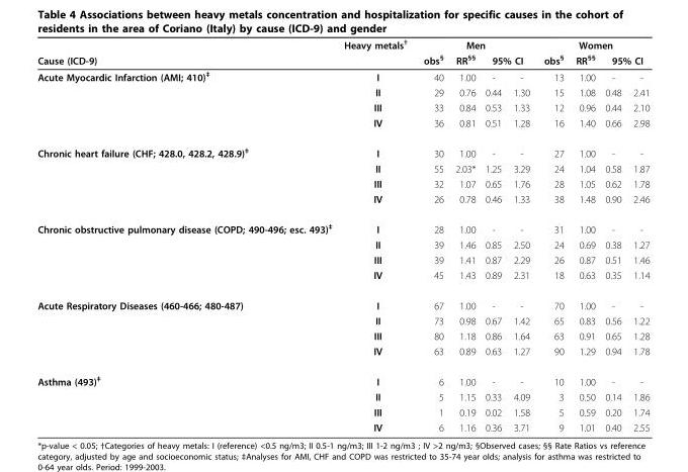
<table><thead><tr><td rowspan="3">Cause (ICD-9) Acute Myocardic Infarction (AMI; 410)<sup>‡</sup></td><td rowspan="3">Heavy metals<sup>†</sup> I</td><td colspan="4">Men</td><td colspan="4">Women</td></tr><tr><td rowspan="2">obs<sup>§</sup> 40</td><td rowspan="2">RR<sup>§§</sup> 1.00</td><td colspan="2">95% CI</td><td rowspan="2">obs<sup>§</sup> 13</td><td rowspan="2">RR<sup>§§</sup> 1.00</td><td colspan="2">95% CI</td></tr><tr><td>-</td><td>-</td><td>-</td><td>-</td></tr></thead><tbody><tr><td></td><td>II</td><td>29</td><td>0.76</td><td>0.44</td><td>1.30</td><td>15</td><td>1.08</td><td>0.48</td><td>2.41</td></tr><tr><td></td><td>III</td><td>33</td><td>0.84</td><td>0.53</td><td>1.33</td><td>12</td><td>0.96</td><td>0.44</td><td>2.10</td></tr><tr><td></td><td>IV</td><td>36</td><td>0.81</td><td>0.51</td><td>1.28</td><td>16</td><td>1.40</td><td>0.66</td><td>2.98</td></tr><tr><td rowspan="4">Chronic heart failure (CHF; 428.0, 428.2, 428.9)<sup>‡</sup></td><td>I</td><td>30</td><td>1.00</td><td>-</td><td>-</td><td>27</td><td>1.00</td><td>-</td><td>-</td></tr><tr><td>II</td><td>55</td><td>2.03*</td><td>1.25</td><td>3.29</td><td>24</td><td>1.04</td><td>0.58</td><td>1.87</td></tr><tr><td>III</td><td>32</td><td>1.07</td><td>0.65</td><td>1.76</td><td>28</td><td>1.05</td><td>0.62</td><td>1.78</td></tr><tr><td>IV</td><td>26</td><td>0.78</td><td>0.46</td><td>1.33</td><td>38</td><td>1.48</td><td>0.90</td><td>2.46</td></tr><tr><td rowspan="4">Chronic obstructive pulmonary disease (COPD; 490-496; esc. 493)<sup>‡</sup></td><td>I</td><td>28</td><td>1.00</td><td>-</td><td>-</td><td>31</td><td>1.00</td><td>-</td><td>-</td></tr><tr><td>II</td><td>39</td><td>1.46</td><td>0.85</td><td>2.50</td><td>24</td><td>0.69</td><td>0.38</td><td>1.27</td></tr><tr><td>III</td><td>39</td><td>1.41</td><td>0.87</td><td>2.29</td><td>26</td><td>0.87</td><td>0.51</td><td>1.46</td></tr><tr><td>IV</td><td>45</td><td>1.43</td><td>0.89</td><td>2.31</td><td>18</td><td>0.63</td><td>0.35</td><td>1.14</td></tr><tr><td rowspan="4">Acute Respiratory Diseases (460-466; 480-487)</td><td>I</td><td>67</td><td>1.00</td><td>-</td><td>-</td><td>70</td><td>1.00</td><td>-</td><td>-</td></tr><tr><td>II</td><td>73</td><td>0.98</td><td>0.67</td><td>1.42</td><td>65</td><td>0.83</td><td>0.56</td><td>1.22</td></tr><tr><td>III</td><td>80</td><td>1.18</td><td>0.86</td><td>1.64</td><td>63</td><td>0.91</td><td>0.65</td><td>1.28</td></tr><tr><td>IV</td><td>63</td><td>0.89</td><td>0.63</td><td>1.27</td><td>90</td><td>1.29</td><td>0.94</td><td>1.78</td></tr><tr><td rowspan="4">Asthma (493)<sup>‡</sup></td><td>I</td><td>6</td><td>1.00</td><td>-</td><td>-</td><td>10</td><td>1.00</td><td>-</td><td>-</td></tr><tr><td>II</td><td>5</td><td>1.15</td><td>0.33</td><td>4.09</td><td>3</td><td>0.50</td><td>0.14</td><td>1.86</td></tr><tr><td>III</td><td>1</td><td>0.19</td><td>0.02</td><td>1.58</td><td>5</td><td>0.59</td><td>0.20</td><td>1.74</td></tr><tr><td>IV</td><td>6</td><td>1.16</td><td>0.36</td><td>3.71</td><td>9</td><td>1.01</td><td>0.40</td><td>2.55</td></tr></tbody></table>